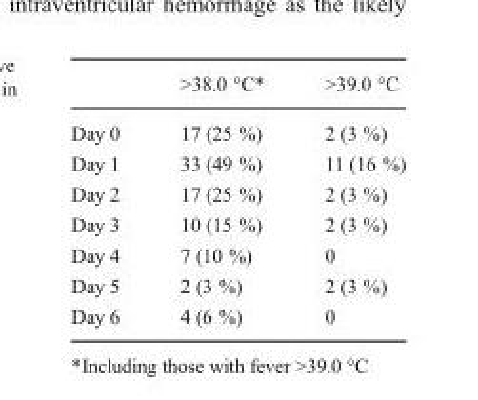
<table><thead><tr><td></td><td>&gt;38.0 °C*</td><td>&gt;39.0 °C</td></tr></thead><tbody><tr><td>Day 0</td><td>17 (25 %)</td><td>2 (3 %)</td></tr><tr><td>Day 1</td><td>33 (49 %)</td><td>11 (16 %)</td></tr><tr><td>Day 2</td><td>17 (25 %)</td><td>2 (3 %)</td></tr><tr><td>Day 3</td><td>10 (15 %)</td><td>2 (3 %)</td></tr><tr><td>Day 4</td><td>7 (10 %)</td><td>0</td></tr><tr><td>Day 5</td><td>2 (3 %)</td><td>2 (3 %)</td></tr><tr><td>Day 6</td><td>4 (6 %)</td><td>0</td></tr></tbody></table>